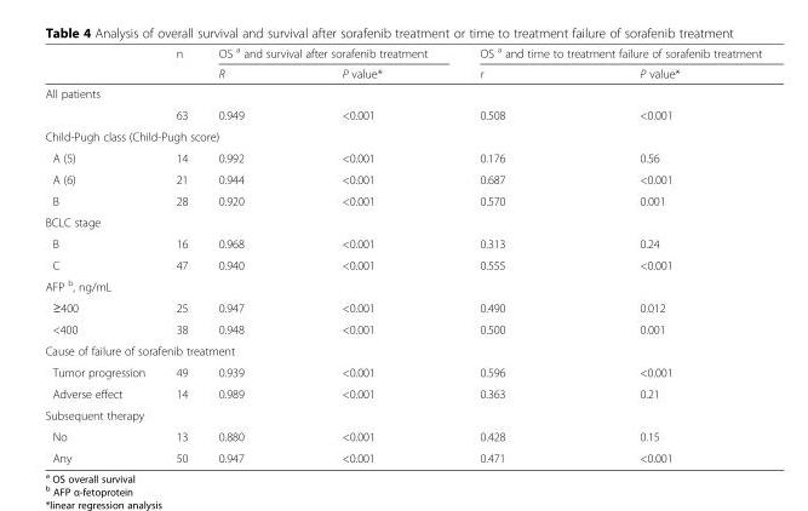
<table><thead><tr><td rowspan="2"></td><td rowspan="2">n</td><td colspan="2">OS <sup>a</sup> and survival after sorafenib treatment</td><td colspan="2">OS <sup>a</sup> and time to treatment failure of sorafenib treatment</td></tr><tr><td>R</td><td>P value*</td><td>r</td><td>P value*</td></tr></thead><tbody><tr><td colspan="6">All patients</td></tr><tr><td></td><td>63</td><td>0.949</td><td>&lt;0.001</td><td>0.508</td><td>&lt;0.001</td></tr><tr><td colspan="6">Child-Pugh class (Child-Pugh score)</td></tr><tr><td>A (5)</td><td>14</td><td>0.992</td><td>&lt;0.001</td><td>0.176</td><td>0.56</td></tr><tr><td>A (6)</td><td>21</td><td>0.944</td><td>&lt;0.001</td><td>0.687</td><td>&lt;0.001</td></tr><tr><td>B</td><td>28</td><td>0.920</td><td>&lt;0.001</td><td>0.570</td><td>0.001</td></tr><tr><td colspan="6">BCLC stage</td></tr><tr><td>B</td><td>16</td><td>0.968</td><td>&lt;0.001</td><td>0.313</td><td>0.24</td></tr><tr><td>C</td><td>47</td><td>0.940</td><td>&lt;0.001</td><td>0.555</td><td>&lt;0.001</td></tr><tr><td colspan="6">AFP <sup>b</sup>, ng/mL</td></tr><tr><td>≥400</td><td>25</td><td>0.947</td><td>&lt;0.001</td><td>0.490</td><td>0.012</td></tr><tr><td>&lt;400</td><td>38</td><td>0.948</td><td>&lt;0.001</td><td>0.500</td><td>0.001</td></tr><tr><td colspan="6">Cause of failure of sorafenib treatment</td></tr><tr><td>Tumor progression</td><td>49</td><td>0.939</td><td>&lt;0.001</td><td>0.596</td><td>&lt;0.001</td></tr><tr><td>Adverse effect</td><td>14</td><td>0.989</td><td>&lt;0.001</td><td>0.363</td><td>0.21</td></tr><tr><td colspan="6">Subsequent therapy</td></tr><tr><td>No</td><td>13</td><td>0.880</td><td>&lt;0.001</td><td>0.428</td><td>0.15</td></tr><tr><td>Any</td><td>50</td><td>0.947</td><td>&lt;0.001</td><td>0.471</td><td>&lt;0.001</td></tr></tbody></table>